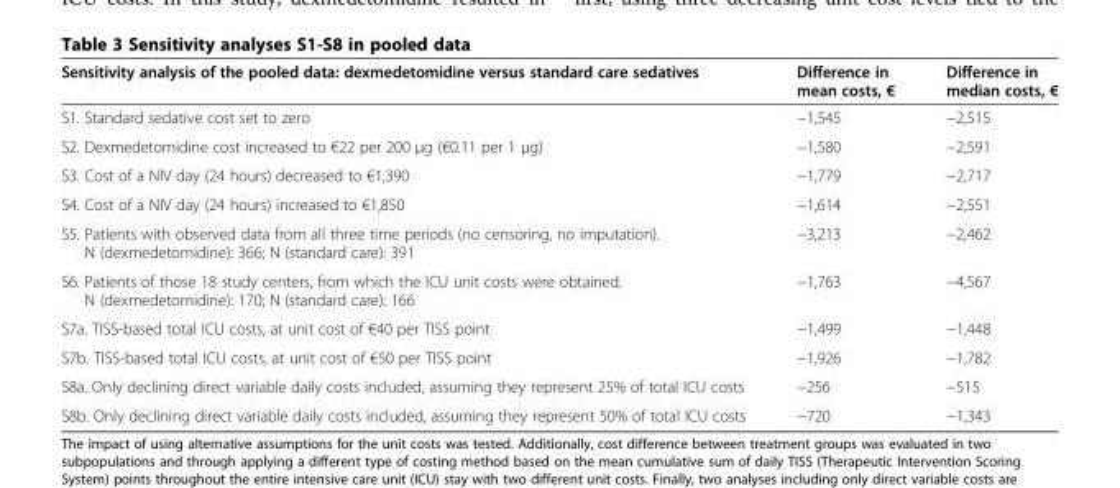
<table><thead><tr><td>Sensitivity analysis of the pooled data: dexmedetomidine versus standard care sedatives</td><td>Difference in mean costs, €</td><td>Difference in median costs, €</td></tr></thead><tbody><tr><td>S1. Standard sedative cost set to zero</td><td>−1,545</td><td>−2,515</td></tr><tr><td>S2. Dexmedetomidine cost increased to €22 per 200 μg (€0.11 per 1 μg)</td><td>−1,580</td><td>−2,591</td></tr><tr><td>S3. Cost of a NIV day (24 hours) decreased to €1,390</td><td>−1,779</td><td>−2,717</td></tr><tr><td>S4. Cost of a NIV day (24 hours) increased to €1,850</td><td>−1,614</td><td>−2,551</td></tr><tr><td>S5. Patients with observed data from all three time periods (no censoring, no imputation). N (dexmedetomidine): 366; N (standard care): 391</td><td>−3,213</td><td>−2,462</td></tr><tr><td>S6. Patients of those 18 study centers, from which the ICU unit costs were obtained. N (dexmedetomidine): 170; N (standard care): 166</td><td>−1,763</td><td>−4,567</td></tr><tr><td>S7a. TISS-based total ICU costs, at unit cost of €40 per TISS point</td><td>−1,499</td><td>−1,448</td></tr><tr><td>S7b. TISS-based total ICU costs, at unit cost of €50 per TISS point</td><td>−1,926</td><td>−1,782</td></tr><tr><td>S8a. Only declining direct variable daily costs included, assuming they represent 25% of total ICU costs</td><td>−256</td><td>−515</td></tr><tr><td>S8b. Only declining direct variable daily costs included, assuming they represent 50% of total ICU costs</td><td>−720</td><td>−1,343</td></tr></tbody></table>